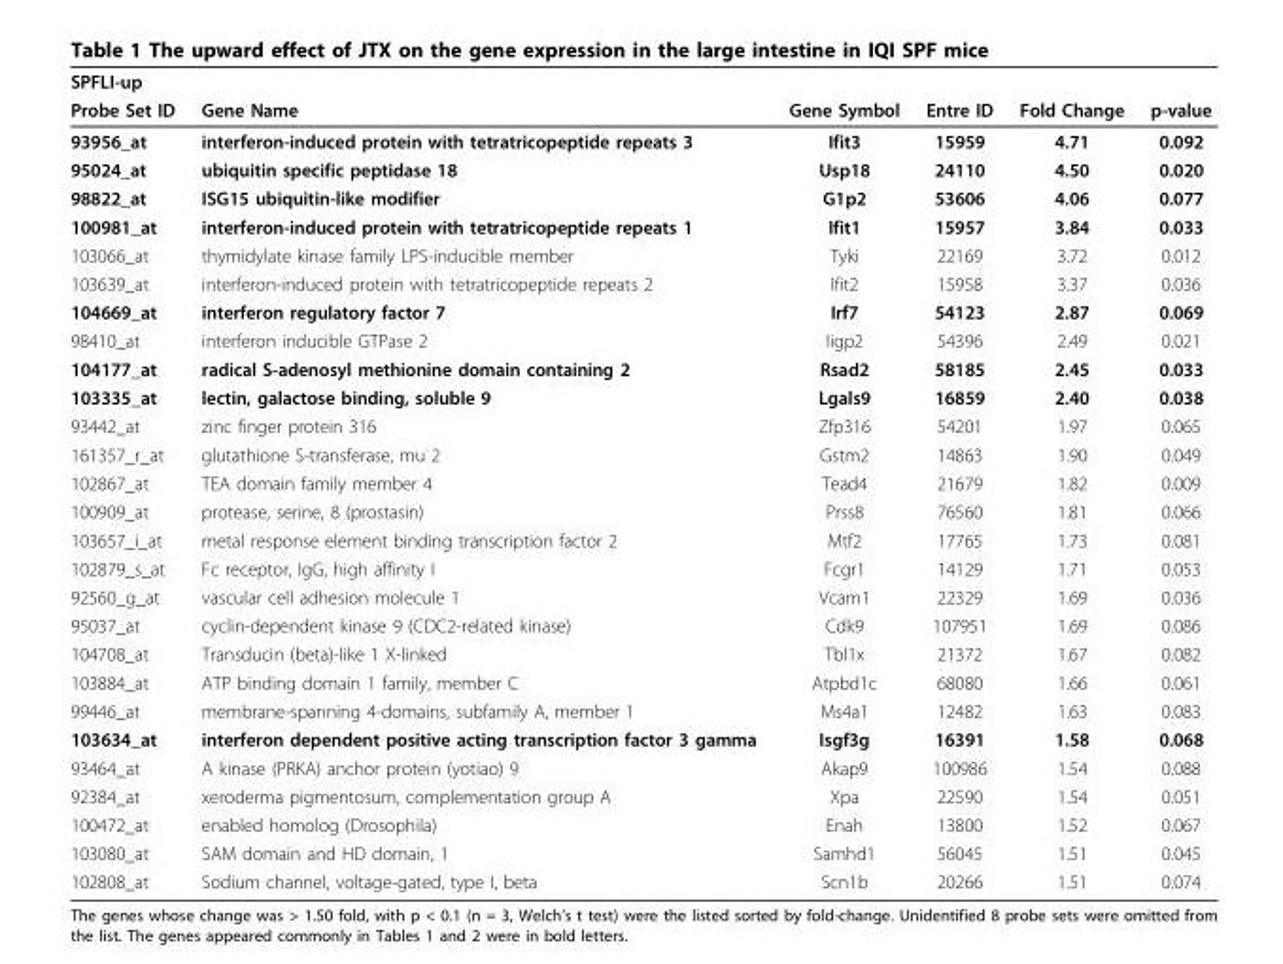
<table><thead><tr><td rowspan="2">SPFLI-up Probe Set ID</td><td rowspan="2">Gene Name</td><td rowspan="2">Gene Symbol</td><td rowspan="2">Entre ID</td><td rowspan="2">Fold Change</td><td rowspan="2">p-value</td></tr><tr></tr></thead><tbody><tr><td>93956_at</td><td>interferon-induced protein with tetratricopeptide repeats 3</td><td>Ifit3</td><td>15959</td><td>4.71</td><td>0.092</td></tr><tr><td>95024_at</td><td>ubiquitin specific peptidase 18</td><td>Usp18</td><td>24110</td><td>4.50</td><td>0.020</td></tr><tr><td>98822_at</td><td>ISG15 ubiquitin-like modifier</td><td>G1p2</td><td>53606</td><td>4.06</td><td>0.077</td></tr><tr><td>100981_at</td><td>interferon-induced protein with tetratricopeptide repeats 1</td><td>Ifit1</td><td>15957</td><td>3.84</td><td>0.033</td></tr><tr><td>103066_at</td><td>thymidylate kinase family LPS-inducible member</td><td>Tyki</td><td>22169</td><td>3.72</td><td>0.012</td></tr><tr><td>103639_at</td><td>interferon-induced protein with tetratricopeptide repeats 2</td><td>Ifit2</td><td>15958</td><td>3.37</td><td>0.036</td></tr><tr><td>104669_at</td><td>interferon regulatory factor 7</td><td>Irf7</td><td>54123</td><td>2.87</td><td>0.069</td></tr><tr><td>98410_at</td><td>interferon inducible GTPase 2</td><td>Iigp2</td><td>54396</td><td>2.49</td><td>0.021</td></tr><tr><td>104177_at</td><td>radical S-adenosyl methionine domain containing 2</td><td>Rsad2</td><td>58185</td><td>2.45</td><td>0.033</td></tr><tr><td>103335_at</td><td>lectin, galactose binding, soluble 9</td><td>Lgals9</td><td>16859</td><td>2.40</td><td>0.038</td></tr><tr><td>93442_at</td><td>zinc finger protein 316</td><td>Zfp316</td><td>54201</td><td>1.97</td><td>0.065</td></tr><tr><td>161357_r_at</td><td>glutathione S-transferase, mu 2</td><td>Gstm2</td><td>14863</td><td>1.90</td><td>0.049</td></tr><tr><td>102867_at</td><td>TEA domain family member 4</td><td>Tead4</td><td>21679</td><td>1.82</td><td>0.009</td></tr><tr><td>100909_at</td><td>protease, serine, 8 (prostasin)</td><td>Prss8</td><td>76560</td><td>1.81</td><td>0.066</td></tr><tr><td>103657_i_at</td><td>metal response element binding transcription factor 2</td><td>Mtf2</td><td>17765</td><td>1.73</td><td>0.081</td></tr><tr><td>102879_s_at</td><td>Fc receptor, IgG, high affinity I</td><td>Fcgr1</td><td>14129</td><td>1.71</td><td>0.053</td></tr><tr><td>92560_g_at</td><td>vascular cell adhesion molecule 1</td><td>Vcam1</td><td>22329</td><td>1.69</td><td>0.036</td></tr><tr><td>95037_at</td><td>cyclin-dependent kinase 9 (CDC2-related kinase)</td><td>Cdk9</td><td>107951</td><td>1.69</td><td>0.086</td></tr><tr><td>104708_at</td><td>Transducin (beta)-like 1 X-linked</td><td>Tbl1x</td><td>21372</td><td>1.67</td><td>0.082</td></tr><tr><td>103884_at</td><td>ATP binding domain 1 family, member C</td><td>Atpbd1c</td><td>68080</td><td>1.66</td><td>0.061</td></tr><tr><td>99446_at</td><td>membrane-spanning 4-domains, subfamily A, member 1</td><td>Ms4a1</td><td>12482</td><td>1.63</td><td>0.083</td></tr><tr><td>103634_at</td><td>interferon dependent positive acting transcription factor 3 gamma</td><td>Isgf3g</td><td>16391</td><td>1.58</td><td>0.068</td></tr><tr><td>93464_at</td><td>A kinase (PRKA) anchor protein (yotiao) 9</td><td>Akap9</td><td>100986</td><td>1.54</td><td>0.088</td></tr><tr><td>92384_at</td><td>xeroderma pigmentosum, complementation group A</td><td>Xpa</td><td>22590</td><td>1.54</td><td>0.051</td></tr><tr><td>100472_at</td><td>enabled homolog (Drosophila)</td><td>Enah</td><td>13800</td><td>1.52</td><td>0.067</td></tr><tr><td>103080_at</td><td>SAM domain and HD domain, 1</td><td>Samhd1</td><td>56045</td><td>1.51</td><td>0.045</td></tr><tr><td>102808_at</td><td>Sodium channel, voltage-gated, type I, beta</td><td>Scn1b</td><td>20266</td><td>1.51</td><td>0.074</td></tr></tbody></table>